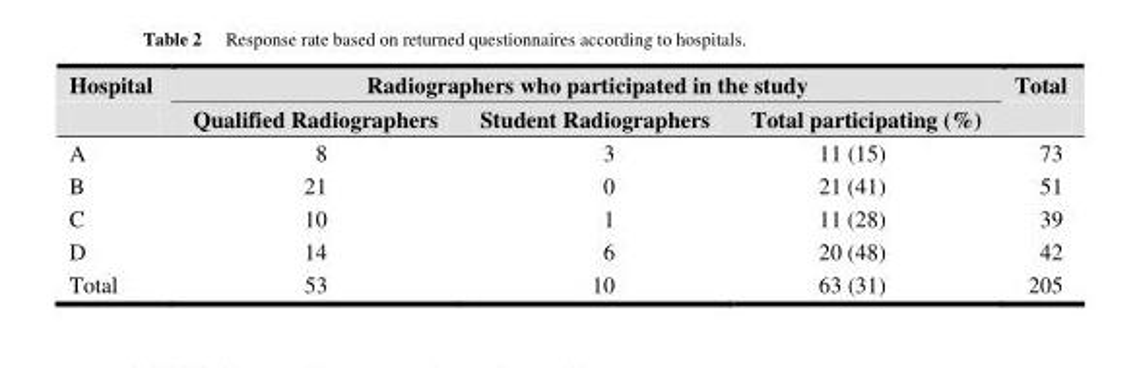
<table><thead><tr><td rowspan="2">Hospital</td><td colspan="3">Radiographers who participated in the study</td><td rowspan="2">Total</td></tr><tr><td>Qualified Radiographers</td><td>Student Radiographers</td><td>Total participating (%)</td></tr></thead><tbody><tr><td>A</td><td>8</td><td>3</td><td>11 (15)</td><td>73</td></tr><tr><td>B</td><td>21</td><td>0</td><td>21 (41)</td><td>51</td></tr><tr><td>C</td><td>10</td><td>1</td><td>11 (28)</td><td>39</td></tr><tr><td>D</td><td>14</td><td>6</td><td>20 (48)</td><td>42</td></tr><tr><td>Total</td><td>53</td><td>10</td><td>63 (31)</td><td>205</td></tr></tbody></table>